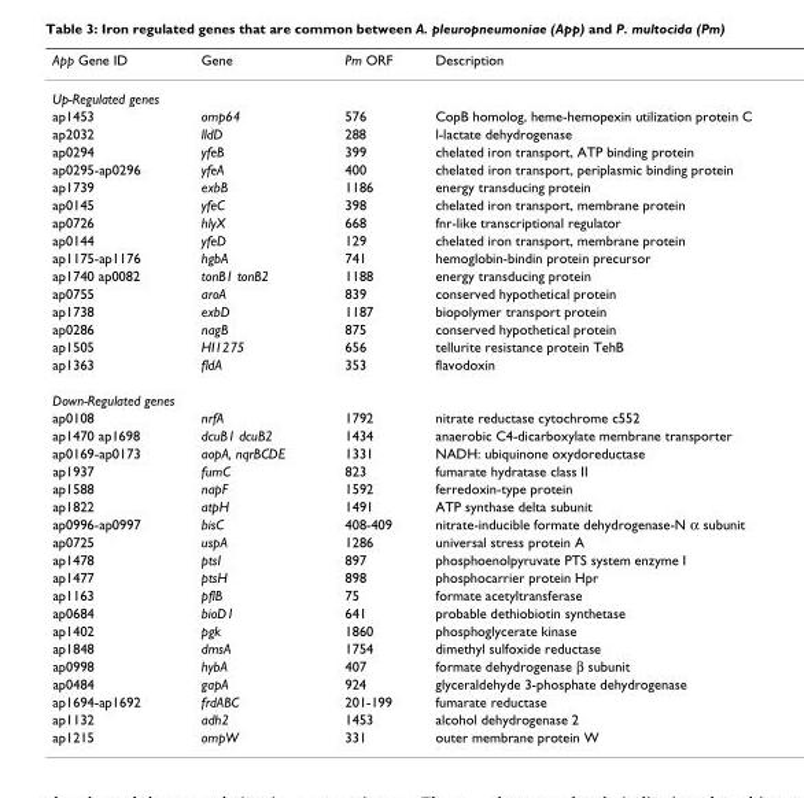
<table><thead><tr><td>App Gene ID</td><td>Gene</td><td>Pm ORF</td><td>Description</td></tr></thead><tbody><tr><td colspan="4">Up-Regulated genes</td></tr><tr><td>ap1453</td><td>omp64</td><td>576</td><td>CopB homolog, heme-hemopexin utilization protein C</td></tr><tr><td>ap2032</td><td>lldD</td><td>288</td><td>l-lactate dehydrogenase</td></tr><tr><td>ap0294</td><td>yfeB</td><td>399</td><td>chelated iron transport, ATP binding protein</td></tr><tr><td>ap0295-ap0296</td><td>yfeA</td><td>400</td><td>chelated iron transport, periplasmic binding protein</td></tr><tr><td>ap1739</td><td>exbB</td><td>1186</td><td>energy transducing protein</td></tr><tr><td>ap0145</td><td>yfeC</td><td>398</td><td>chelated iron transport, membrane protein</td></tr><tr><td>ap0726</td><td>hlyX</td><td>668</td><td>fnr-like transcriptional regulator</td></tr><tr><td>ap0144</td><td>yfeD</td><td>129</td><td>chelated iron transport, membrane protein</td></tr><tr><td>ap1175-ap1176</td><td>hgbA</td><td>741</td><td>hemoglobin-bindin protein precursor</td></tr><tr><td>ap1740 ap0082</td><td>tonB1 tonB2</td><td>1188</td><td>energy transducing protein</td></tr><tr><td>ap0755</td><td>aroA</td><td>839</td><td>conserved hypothetical protein</td></tr><tr><td>ap1738</td><td>exbD</td><td>1187</td><td>biopolymer transport protein</td></tr><tr><td>ap0286</td><td>nagB</td><td>875</td><td>conserved hypothetical protein</td></tr><tr><td>ap1505</td><td>HI1275</td><td>656</td><td>tellurite resistance protein TehB</td></tr><tr><td>ap1363</td><td>fldA</td><td>353</td><td>flavodoxin</td></tr><tr><td colspan="4">Down-Regulated genes</td></tr><tr><td>ap0108</td><td>nrfA</td><td>1792</td><td>nitrate reductase cytochrome c552</td></tr><tr><td>ap1470 ap1698</td><td>dcuB1 dcuB2</td><td>1434</td><td>anaerobic C4-dicarboxylate membrane transporter</td></tr><tr><td>ap0169-ap0173</td><td>aopA, nqrBCDE</td><td>1331</td><td>NADH: ubiquinone oxydoreductase</td></tr><tr><td>ap1937</td><td>fumC</td><td>823</td><td>fumarate hydratase class II</td></tr><tr><td>ap1588</td><td>napF</td><td>1592</td><td>ferredoxin-type protein</td></tr><tr><td>ap1822</td><td>atpH</td><td>1491</td><td>ATP synthase delta subunit</td></tr><tr><td>ap0996-ap0997</td><td>bisC</td><td>408-409</td><td>nitrate-inducible formate dehydrogenase-N α subunit</td></tr><tr><td>ap0725</td><td>uspA</td><td>1286</td><td>universal stress protein A</td></tr><tr><td>ap1478</td><td>ptsI</td><td>897</td><td>phosphoenolpyruvate PTS system enzyme I</td></tr><tr><td>ap1477</td><td>ptsH</td><td>898</td><td>phosphocarrier protein Hpr</td></tr><tr><td>ap1163</td><td>pflB</td><td>75</td><td>formate acetyltransferase</td></tr><tr><td>ap0684</td><td>bioD1</td><td>641</td><td>probable dethiobiotin synthetase</td></tr><tr><td>ap1402</td><td>pgk</td><td>1860</td><td>phosphoglycerate kinase</td></tr><tr><td>ap1848</td><td>dmsA</td><td>1754</td><td>dimethyl sulfoxide reductase</td></tr><tr><td>ap0998</td><td>hybA</td><td>407</td><td>formate dehydrogenase β subunit</td></tr><tr><td>ap0484</td><td>gapA</td><td>924</td><td>glyceraldehyde 3-phosphate dehydrogenase</td></tr><tr><td>ap1694-ap1692</td><td>frdABC</td><td>201-199</td><td>fumarate reductase</td></tr><tr><td>ap1132</td><td>adh2</td><td>1453</td><td>alcohol dehydrogenase 2</td></tr><tr><td>ap1215</td><td>ompW</td><td>331</td><td>outer membrane protein W</td></tr></tbody></table>